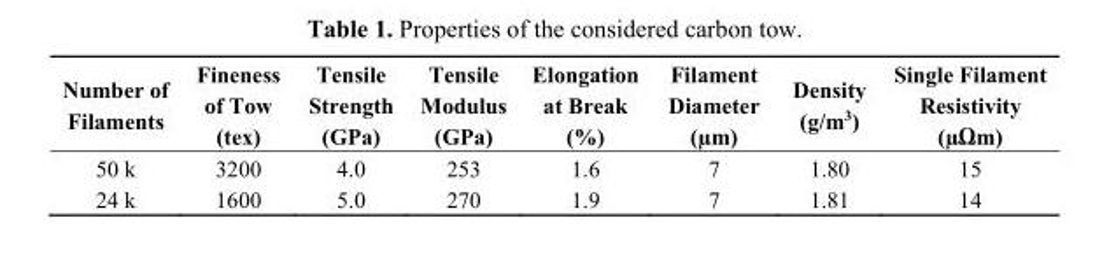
<table><thead><tr><td>Number of Filaments</td><td>Fineness of Tow (tex)</td><td>Tensile Strength (GPa)</td><td>Tensile Modulus (GPa)</td><td>Elongation at Break (%)</td><td>Filament Diameter (µm)</td><td>Density (g/m<sup>3</sup>)</td><td>Single Filament Resistivity (µΩm)</td></tr></thead><tbody><tr><td>50 k</td><td>3200</td><td>4.0</td><td>253</td><td>1.6</td><td>7</td><td>1.80</td><td>15</td></tr><tr><td>24 k</td><td>1600</td><td>5.0</td><td>270</td><td>1.9</td><td>7</td><td>1.81</td><td>14</td></tr></tbody></table>